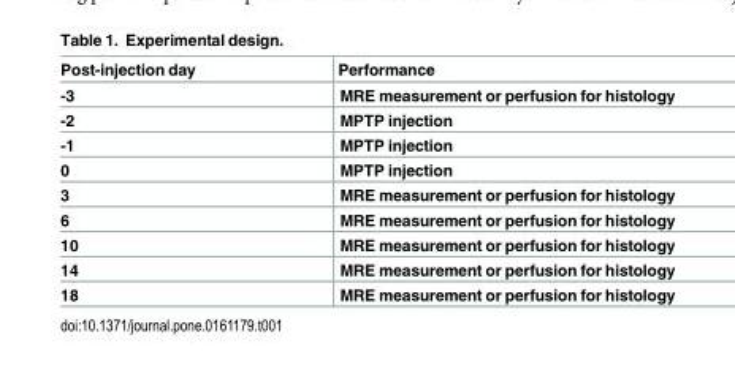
<table><thead><tr><td>Post-injection day</td><td>Performance</td></tr></thead><tbody><tr><td>-3</td><td>MRE measurement or perfusion for histology</td></tr><tr><td>-2</td><td>MPTP injection</td></tr><tr><td>-1</td><td>MPTP injection</td></tr><tr><td>0</td><td>MPTP injection</td></tr><tr><td>3</td><td>MRE measurement or perfusion for histology</td></tr><tr><td>6</td><td>MRE measurement or perfusion for histology</td></tr><tr><td>10</td><td>MRE measurement or perfusion for histology</td></tr><tr><td>14</td><td>MRE measurement or perfusion for histology</td></tr><tr><td>18</td><td>MRE measurement or perfusion for histology</td></tr></tbody></table>